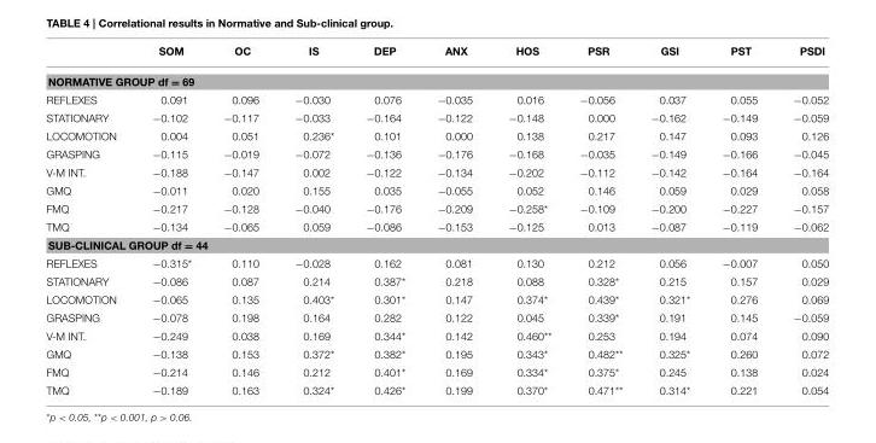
<table><thead><tr><td></td><td>SOM</td><td>OC</td><td>IS</td><td>DEP</td><td>ANX</td><td>HOS</td><td>PSR</td><td>GSI</td><td>PST</td><td>PSDI</td></tr></thead><tbody><tr><td colspan="11">NORMATIVE GROUP df = 69</td></tr><tr><td>REFLEXES</td><td>0.091</td><td>0.096</td><td>−0.030</td><td>0.076</td><td>−0.035</td><td>0.016</td><td>−0.056</td><td>0.037</td><td>0.055</td><td>−0.052</td></tr><tr><td>STATIONARY</td><td>−0.102</td><td>−0.117</td><td>−0.033</td><td>−0.164</td><td>−0.122</td><td>−0.148</td><td>0.000</td><td>−0.162</td><td>−0.149</td><td>−0.059</td></tr><tr><td>LOCOMOTION</td><td>0.004</td><td>0.051</td><td>0.236*</td><td>0.101</td><td>0.000</td><td>0.138</td><td>0.217</td><td>0.147</td><td>0.093</td><td>0.126</td></tr><tr><td>GRASPING</td><td>−0.115</td><td>−0.019</td><td>−0.072</td><td>−0.136</td><td>−0.176</td><td>−0.168</td><td>−0.035</td><td>−0.149</td><td>−0.166</td><td>−0.045</td></tr><tr><td>V-M INT.</td><td>−0.188</td><td>−0.147</td><td>0.002</td><td>−0.122</td><td>−0.134</td><td>−0.202</td><td>−0.112</td><td>−0.142</td><td>−0.164</td><td>−0.164</td></tr><tr><td>GMQ</td><td>−0.011</td><td>0.020</td><td>0.155</td><td>0.035</td><td>−0.055</td><td>0.052</td><td>0.146</td><td>0.059</td><td>0.029</td><td>0.058</td></tr><tr><td>FMQ</td><td>−0.217</td><td>−0.128</td><td>−0.040</td><td>−0.176</td><td>−0.209</td><td>−0.258*</td><td>−0.109</td><td>−0.200</td><td>−0.227</td><td>−0.157</td></tr><tr><td>TMQ</td><td>−0.134</td><td>−0.065</td><td>0.059</td><td>−0.086</td><td>−0.153</td><td>−0.125</td><td>0.013</td><td>−0.087</td><td>−0.119</td><td>−0.062</td></tr><tr><td colspan="11">SUB-CLINICAL GROUP df = 44</td></tr><tr><td>REFLEXES</td><td>−0.315*</td><td>0.110</td><td>−0.028</td><td>0.162</td><td>0.081</td><td>0.130</td><td>0.212</td><td>0.056</td><td>−0.007</td><td>0.050</td></tr><tr><td>STATIONARY</td><td>−0.086</td><td>0.087</td><td>0.214</td><td>0.387*</td><td>0.218</td><td>0.088</td><td>0.328*</td><td>0.215</td><td>0.157</td><td>0.029</td></tr><tr><td>LOCOMOTION</td><td>−0.065</td><td>0.135</td><td>0.403*</td><td>0.301*</td><td>0.147</td><td>0.374*</td><td>0.439*</td><td>0.321*</td><td>0.276</td><td>0.069</td></tr><tr><td>GRASPING</td><td>−0.078</td><td>0.198</td><td>0.164</td><td>0.282</td><td>0.122</td><td>0.045</td><td>0.339*</td><td>0.191</td><td>0.145</td><td>−0.059</td></tr><tr><td>V-M INT.</td><td>−0.249</td><td>0.038</td><td>0.169</td><td>0.344*</td><td>0.142</td><td>0.460**</td><td>0.253</td><td>0.194</td><td>0.074</td><td>0.090</td></tr><tr><td>GMQ</td><td>−0.138</td><td>0.153</td><td>0.372*</td><td>0.382*</td><td>0.195</td><td>0.343*</td><td>0.482**</td><td>0.325*</td><td>0.260</td><td>0.072</td></tr><tr><td>FMQ</td><td>−0.214</td><td>0.146</td><td>0.212</td><td>0.401*</td><td>0.169</td><td>0.334*</td><td>0.375*</td><td>0.245</td><td>0.138</td><td>0.024</td></tr><tr><td>TMQ</td><td>−0.189</td><td>0.163</td><td>0.324*</td><td>0.426*</td><td>0.199</td><td>0.370*</td><td>0.471**</td><td>0.314*</td><td>0.221</td><td>0.054</td></tr></tbody></table>